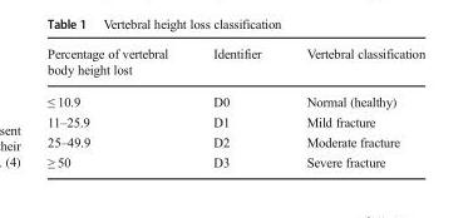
<table><thead><tr><td>Percentage of vertebral body height lost</td><td>Identifier</td><td>Vertebral classification</td></tr></thead><tbody><tr><td>≤ 10.9</td><td>D0</td><td>Normal (healthy)</td></tr><tr><td>11–25.9</td><td>D1</td><td>Mild fracture</td></tr><tr><td>25–49.9</td><td>D2</td><td>Moderate fracture</td></tr><tr><td>≥ 50</td><td>D3</td><td>Severe fracture</td></tr></tbody></table>